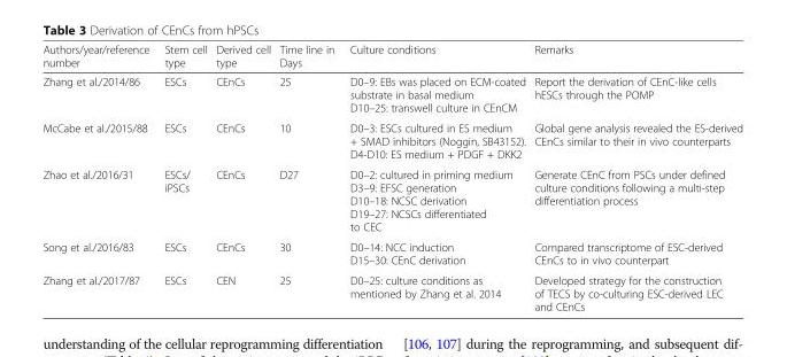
<table><thead><tr><td>Authors/year/reference number</td><td>Stem cell type</td><td>Derived cell type</td><td>Time line in Days</td><td>Culture conditions</td><td>Remarks</td></tr></thead><tbody><tr><td>Zhang et al./2014/86</td><td>ESCs</td><td>CEnCs</td><td>25</td><td>D0–9: EBs was placed on ECM-coated substrate in basal medium D10–25: transwell culture in CEnCM</td><td>Report the derivation of CEnC-like cells hESCs through the POMP</td></tr><tr><td>McCabe et al./2015/88</td><td>ESCs</td><td>CEnCs</td><td>10</td><td>D0–3: ESCs cultured in ES medium + SMAD inhibitors (Noggin, SB43152). D4-D10: ES medium + PDGF + DKK2</td><td>Global gene analysis revealed the ES-derived CEnCs similar to their in vivo counterparts</td></tr><tr><td>Zhao et al./2016/31</td><td>ESCs/ iPSCs</td><td>CEnCs</td><td>D27</td><td>D0–2: cultured in priming medium D3–9: EFSC generation D10–18: NCSC derivation D19–27: NCSCs differentiated to CEC</td><td>Generate CEnC from PSCs under defined culture conditions following a multi-step differentiation process</td></tr><tr><td>Song et al./2016/83</td><td>ESCs</td><td>CEnCs</td><td>30</td><td>D0–14: NCC induction D15–30: CEnC derivation</td><td>Compared transcriptome of ESC-derived CEnCs to in vivo counterpart</td></tr><tr><td>Zhang et al./2017/87</td><td>ESCs</td><td>CEN</td><td>25</td><td>D0–25: culture conditions as mentioned by Zhang et al. 2014</td><td>Developed strategy for the construction of TECS by co-culturing ESC-derived LEC and CEnCs</td></tr></tbody></table>